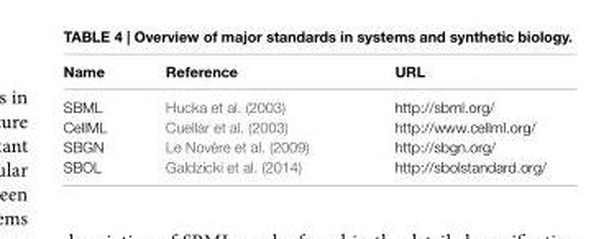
<table><thead><tr><td>Name</td><td>Reference</td><td>URL</td></tr></thead><tbody><tr><td>SBML</td><td>Hucka et al. (2003)</td><td>http://sbml.org/</td></tr><tr><td>CellML</td><td>Cuellar et al. (2003)</td><td>http://www.cellml.org/</td></tr><tr><td>SBGN</td><td>Le Novère et al. (2009)</td><td>http://sbgn.org/</td></tr><tr><td>SBOL</td><td>Galdzicki et al. (2014)</td><td>http://sbolstandard.org/</td></tr></tbody></table>